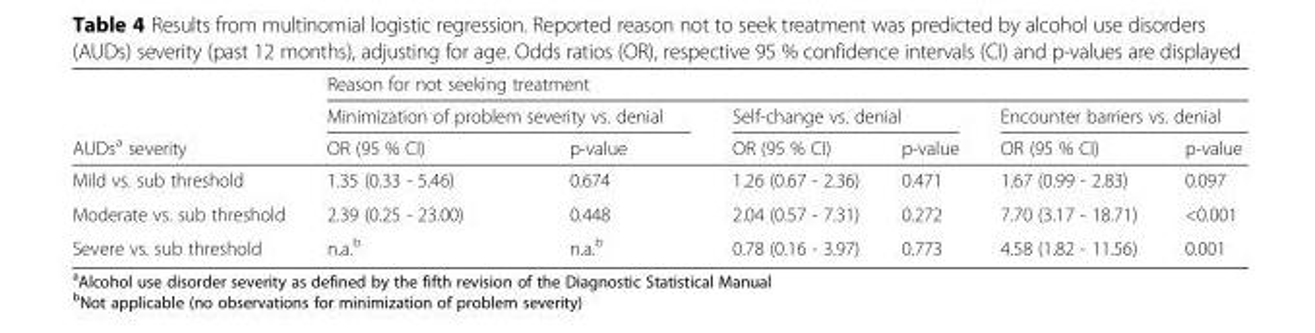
<table><thead><tr><td rowspan="3">AUDs<sup>a</sup> severity</td><td colspan="6">Reason for not seeking treatment</td></tr><tr><td colspan="2">Minimization of problem severity vs. denial</td><td colspan="2">Self-change vs. denial</td><td colspan="2">Encounter barriers vs. denial</td></tr><tr><td>OR (95 % CI)</td><td>p-value</td><td>OR (95 % CI)</td><td>p-value</td><td>OR (95 % CI)</td><td>p-value</td></tr></thead><tbody><tr><td>Mild vs. sub threshold</td><td>1.35 (0.33 - 5.46)</td><td>0.674</td><td>1.26 (0.67 - 2.36)</td><td>0.471</td><td>1.67 (0.99 - 2.83)</td><td>0.097</td></tr><tr><td>Moderate vs. sub threshold</td><td>2.39 (0.25 - 23.00)</td><td>0.448</td><td>2.04 (0.57 - 7.31)</td><td>0.272</td><td>7.70 (3.17 - 18.71)</td><td>&lt;0.001</td></tr><tr><td>Severe vs. sub threshold</td><td>n.a.<sup>b</sup></td><td>n.a.<sup>b</sup></td><td>0.78 (0.16 - 3.97)</td><td>0.773</td><td>4.58 (1.82 - 11.56)</td><td>0.001</td></tr></tbody></table>